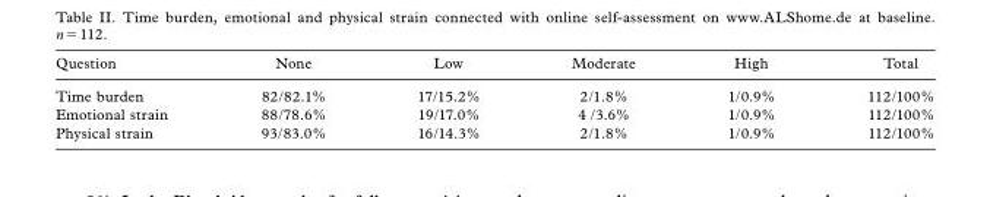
<table><thead><tr><td>Question</td><td>None</td><td>Low</td><td>Moderate</td><td>High</td><td>Total</td></tr></thead><tbody><tr><td>Time burden</td><td>82/82.1%</td><td>17/15.2%</td><td>2/1.8%</td><td>1/0.9%</td><td>112/100%</td></tr><tr><td>Emotional strain</td><td>88/78.6%</td><td>19/17.0%</td><td>4 /3.6%</td><td>1/0.9%</td><td>112/100%</td></tr><tr><td>Physical strain</td><td>93/83.0%</td><td>16/14.3%</td><td>2/1.8%</td><td>1/0.9%</td><td>112/100%</td></tr></tbody></table>